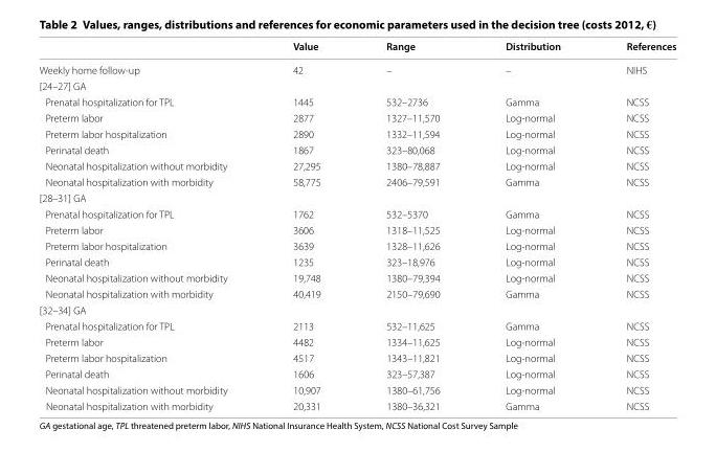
<table><thead><tr><td></td><td>Value</td><td>Range</td><td>Distribution</td><td>References</td></tr></thead><tbody><tr><td>Weekly home follow-up</td><td>42</td><td>–</td><td>–</td><td>NIHS</td></tr><tr><td colspan="5">[24–27] GA</td></tr><tr><td>Prenatal hospitalization for TPL</td><td>1445</td><td>532–2736</td><td>Gamma</td><td>NCSS</td></tr><tr><td>Preterm labor</td><td>2877</td><td>1327–11,570</td><td>Log-normal</td><td>NCSS</td></tr><tr><td>Preterm labor hospitalization</td><td>2890</td><td>1332–11,594</td><td>Log-normal</td><td>NCSS</td></tr><tr><td>Perinatal death</td><td>1867</td><td>323–80,068</td><td>Log-normal</td><td>NCSS</td></tr><tr><td>Neonatal hospitalization without morbidity</td><td>27,295</td><td>1380–78,887</td><td>Log-normal</td><td>NCSS</td></tr><tr><td>Neonatal hospitalization with morbidity</td><td>58,775</td><td>2406–79,591</td><td>Gamma</td><td>NCSS</td></tr><tr><td colspan="5">[28–31] GA</td></tr><tr><td>Prenatal hospitalization for TPL</td><td>1762</td><td>532–5370</td><td>Gamma</td><td>NCSS</td></tr><tr><td>Preterm labor</td><td>3606</td><td>1318–11,525</td><td>Log-normal</td><td>NCSS</td></tr><tr><td>Preterm labor hospitalization</td><td>3639</td><td>1328–11,626</td><td>Log-normal</td><td>NCSS</td></tr><tr><td>Perinatal death</td><td>1235</td><td>323–18,976</td><td>Log-normal</td><td>NCSS</td></tr><tr><td>Neonatal hospitalization without morbidity</td><td>19,748</td><td>1380–79,394</td><td>Log-normal</td><td>NCSS</td></tr><tr><td>Neonatal hospitalization with morbidity</td><td>40,419</td><td>2150–79,690</td><td>Gamma</td><td>NCSS</td></tr><tr><td colspan="5">[32–34] GA</td></tr><tr><td>Prenatal hospitalization for TPL</td><td>2113</td><td>532–11,625</td><td>Gamma</td><td>NCSS</td></tr><tr><td>Preterm labor</td><td>4482</td><td>1334–11,625</td><td>Log-normal</td><td>NCSS</td></tr><tr><td>Preterm labor hospitalization</td><td>4517</td><td>1343–11,821</td><td>Log-normal</td><td>NCSS</td></tr><tr><td>Perinatal death</td><td>1606</td><td>323–57,387</td><td>Log-normal</td><td>NCSS</td></tr><tr><td>Neonatal hospitalization without morbidity</td><td>10,907</td><td>1380–61,756</td><td>Log-normal</td><td>NCSS</td></tr><tr><td>Neonatal hospitalization with morbidity</td><td>20,331</td><td>1380–36,321</td><td>Gamma</td><td>NCSS</td></tr></tbody></table>